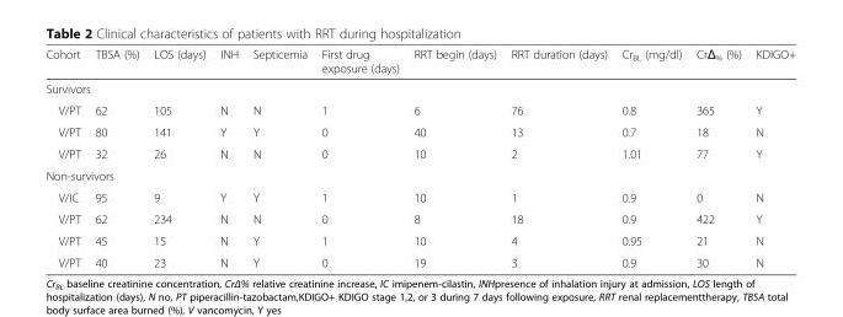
<table><thead><tr><td>Cohort</td><td>TBSA (%)</td><td>LOS (days)</td><td>INH</td><td>Septicemia</td><td>First drug exposure (days)</td><td>RRT begin (days)</td><td>RRT duration (days)</td><td>Cr<sub>BL</sub> (mg/dl)</td><td>CrΔ<sub>%</sub> (%)</td><td>KDIGO+</td></tr></thead><tbody><tr><td colspan="11">Survivors</td></tr><tr><td>V/PT</td><td>62</td><td>105</td><td>N</td><td>N</td><td>1</td><td>6</td><td>76</td><td>0.8</td><td>365</td><td>Y</td></tr><tr><td>V/PT</td><td>80</td><td>141</td><td>Y</td><td>Y</td><td>0</td><td>40</td><td>13</td><td>0.7</td><td>18</td><td>N</td></tr><tr><td>V/PT</td><td>32</td><td>26</td><td>N</td><td>N</td><td>0</td><td>10</td><td>2</td><td>1.01</td><td>77</td><td>Y</td></tr><tr><td colspan="11">Non-survivors</td></tr><tr><td>V/IC</td><td>95</td><td>9</td><td>Y</td><td>Y</td><td>1</td><td>10</td><td>1</td><td>0.9</td><td>0</td><td>N</td></tr><tr><td>V/PT</td><td>62</td><td>234</td><td>N</td><td>N</td><td>0</td><td>8</td><td>18</td><td>0.9</td><td>422</td><td>Y</td></tr><tr><td>V/PT</td><td>45</td><td>15</td><td>N</td><td>Y</td><td>1</td><td>10</td><td>4</td><td>0.95</td><td>21</td><td>N</td></tr><tr><td>V/PT</td><td>40</td><td>23</td><td>N</td><td>Y</td><td>0</td><td>19</td><td>3</td><td>0.9</td><td>30</td><td>N</td></tr></tbody></table>